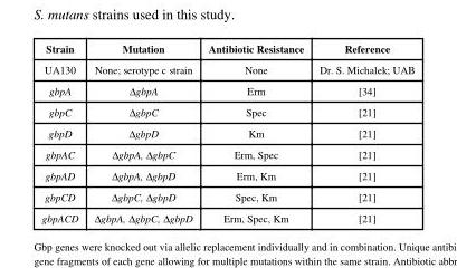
<table><thead><tr><td>Strain</td><td>Mutation</td><td>Antibiotic Resistance</td><td>Reference</td></tr></thead><tbody><tr><td>UA130</td><td>None; serotype c strain</td><td>None</td><td>Dr. S. Michalek; UAB</td></tr><tr><td>gbpA</td><td>ΔgbpA</td><td>Erm</td><td>[34]</td></tr><tr><td>gbpC</td><td>ΔgbpC</td><td>Spec</td><td>[21]</td></tr><tr><td>gbpD</td><td>ΔgbpD</td><td>Km</td><td>[21]</td></tr><tr><td>gbpAC</td><td>ΔgbpA, ΔgbpC</td><td>Erm, Spec</td><td>[21]</td></tr><tr><td>gbpAD</td><td>ΔgbpA, ΔgbpD</td><td>Erm, Km</td><td>[21]</td></tr><tr><td>gbpCD</td><td>ΔgbpC, ΔgbpD</td><td>Spec, Km</td><td>[21]</td></tr><tr><td>gbpACD</td><td>ΔgbpA, ΔgbpC, ΔgbpD</td><td>Erm, Spec, Km</td><td>[21]</td></tr></tbody></table>